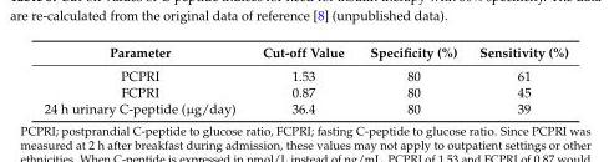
<table><thead><tr><td>Parameter</td><td>Cut-off Value</td><td>Specificity (%)</td><td>Sensitivity (%)</td></tr></thead><tbody><tr><td>PCPRI</td><td>1.53</td><td>80</td><td>61</td></tr><tr><td>FCPRI</td><td>0.87</td><td>80</td><td>45</td></tr><tr><td>24 h urinary C-peptide (µg/day)</td><td>36.4</td><td>80</td><td>39</td></tr></tbody></table>